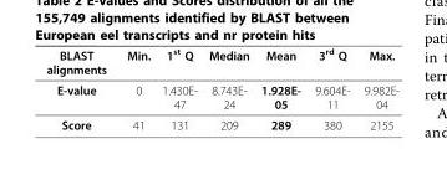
<table><thead><tr><td>BLAST alignments</td><td>Min.</td><td>1<sup>st</sup> Q</td><td>Median</td><td>Mean</td><td>3<sup>rd</sup> Q</td><td>Max.</td></tr></thead><tbody><tr><td>E-value</td><td>0</td><td>1.430E- 47</td><td>8.743E- 24</td><td>1.928E- 05</td><td>9.604E- 11</td><td>9.982E- 04</td></tr><tr><td>Score</td><td>41</td><td>131</td><td>209</td><td>289</td><td>380</td><td>2155</td></tr></tbody></table>